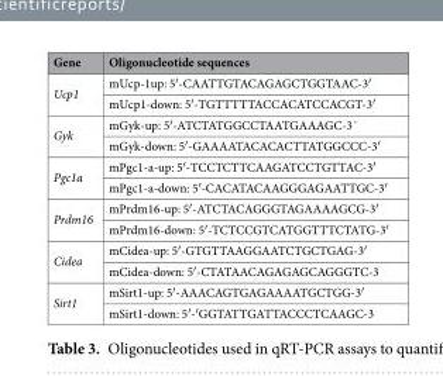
<table><thead><tr><td>Gene</td><td>Oligonucleotide sequences</td></tr></thead><tbody><tr><td rowspan="2">Ucp1</td><td>mUcp-1up: 5′-CAATTGTACAGAGCTGGTAAC-3′</td></tr><tr><td>mUcp1-down: 5′-TGTTTTTACCACATCCACGT-3′</td></tr><tr><td rowspan="2">Gyk</td><td>mGyk-up: 5′-ATCTATGGCCTAATGAAAGC-3´</td></tr><tr><td>mGyk-down: 5′-GAAAATACACACTTATGGCCC-3′</td></tr><tr><td rowspan="2">Pgc1a</td><td>mPgc1-a-up: 5′-TCCTCTTCAAGATCCTGTTAC-3′</td></tr><tr><td>mPgc1-a-down: 5′-CACATACAAGGGAGAATTGC-3′</td></tr><tr><td rowspan="2">Prdm16</td><td>mPrdm16-up: 5′-ATCTACAGGGTAGAAAAGCG-3′</td></tr><tr><td>mPrdm16-down: 5′-TCTCCGTCATGGTTTCTATG-3′</td></tr><tr><td rowspan="2">Cidea</td><td>mCidea-up: 5′-GTGTTAAGGAATCTGCTGAG-3′</td></tr><tr><td>mCidea-down: 5′-CTATAACAGAGAGCAGGGTC-3</td></tr><tr><td rowspan="2">Sirt1</td><td>mSirt1-up: 5′-AAACAGTGAGAAAATGCTGG-3′</td></tr><tr><td>mSirt1-down: 5′-′GGTATTGATTACCCTCAAGC-3</td></tr></tbody></table>